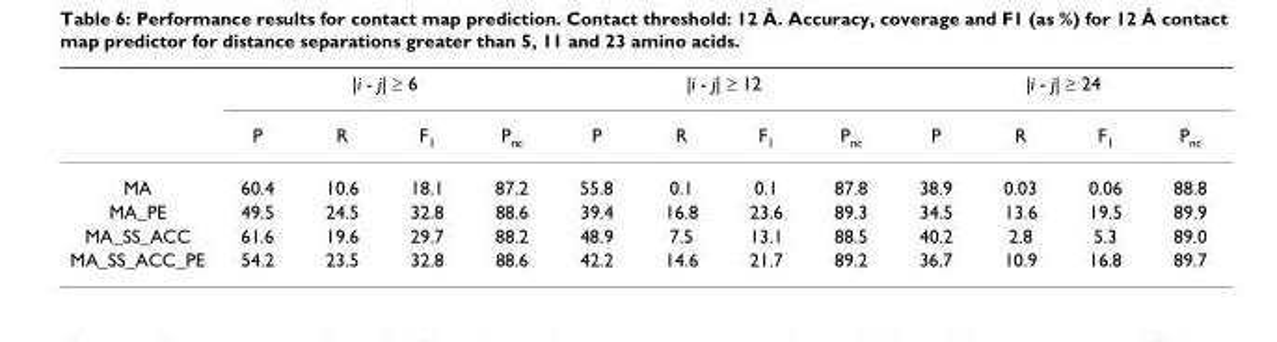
<table><thead><tr><td rowspan="2"></td><td colspan="4">|i - j| ≥ 6</td><td colspan="4">|i - j| ≥ 12</td><td colspan="4">|i - j| ≥ 24</td></tr><tr><td>P</td><td>R</td><td>F1</td><td>Pnc</td><td>P</td><td>R</td><td>F1</td><td>Pnc</td><td>P</td><td>R</td><td>F1</td><td>Pnc</td></tr></thead><tbody><tr><td>MA</td><td>60.4</td><td>10.6</td><td>18.1</td><td>87.2</td><td>55.8</td><td>0.1</td><td>0.1</td><td>87.8</td><td>38.9</td><td>0.03</td><td>0.06</td><td>88.8</td></tr><tr><td>MA_PE</td><td>49.5</td><td>24.5</td><td>32.8</td><td>88.6</td><td>39.4</td><td>16.8</td><td>23.6</td><td>89.3</td><td>34.5</td><td>13.6</td><td>19.5</td><td>89.9</td></tr><tr><td>MA_SS_ACC</td><td>61.6</td><td>19.6</td><td>29.7</td><td>88.2</td><td>48.9</td><td>7.5</td><td>13.1</td><td>88.5</td><td>40.2</td><td>2.8</td><td>5.3</td><td>89.0</td></tr><tr><td>MA_SS_ACC_PE</td><td>54.2</td><td>23.5</td><td>32.8</td><td>88.6</td><td>42.2</td><td>14.6</td><td>21.7</td><td>89.2</td><td>36.7</td><td>10.9</td><td>16.8</td><td>89.7</td></tr></tbody></table>